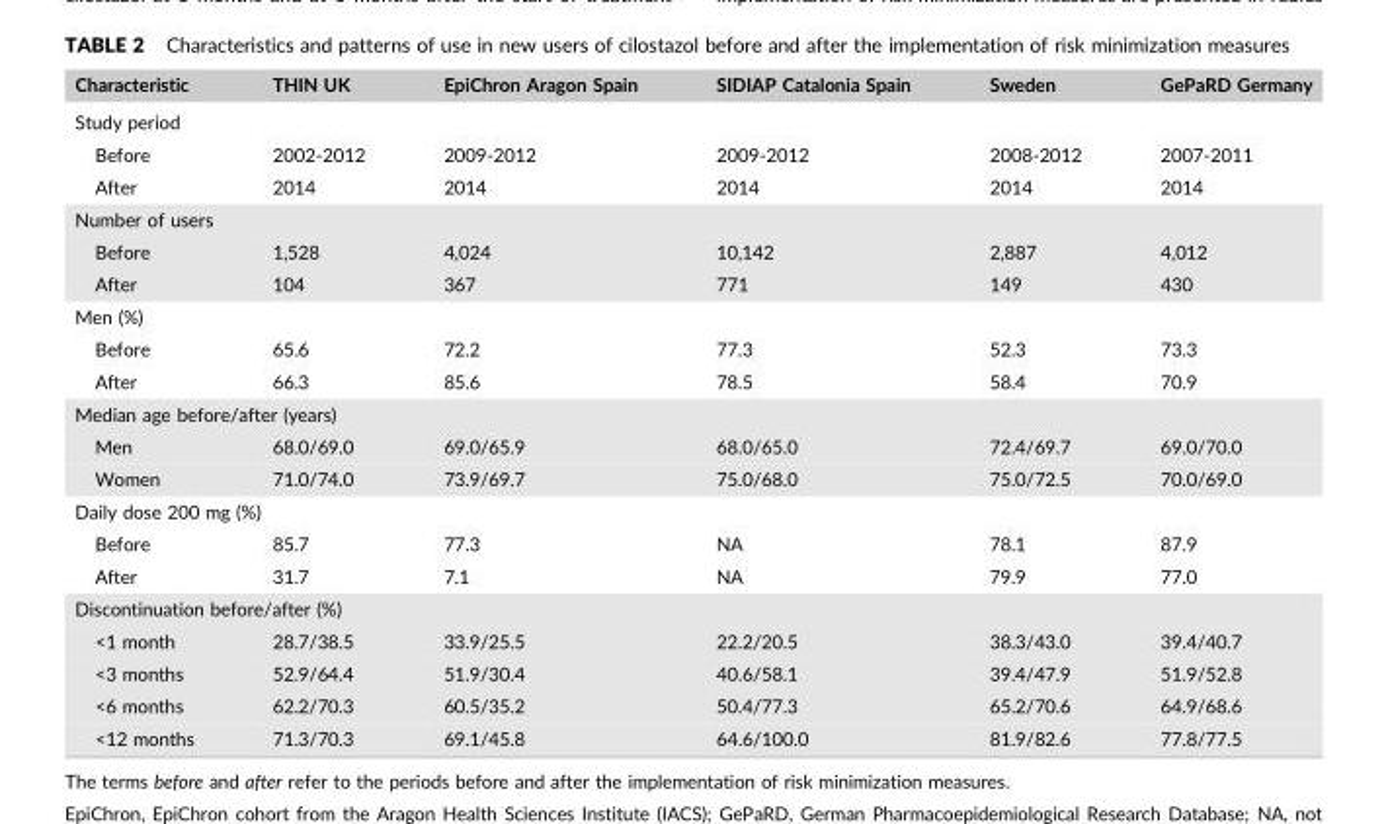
<table><thead><tr><td>Characteristic</td><td>THIN UK</td><td>EpiChron Aragon Spain</td><td>SIDIAP Catalonia Spain</td><td>Sweden</td><td>GePaRD Germany</td></tr></thead><tbody><tr><td colspan="6">Study period</td></tr><tr><td>Before</td><td>2002‐2012</td><td>2009‐2012</td><td>2009‐2012</td><td>2008‐2012</td><td>2007‐2011</td></tr><tr><td>After</td><td>2014</td><td>2014</td><td>2014</td><td>2014</td><td>2014</td></tr><tr><td colspan="6">Number of users</td></tr><tr><td>Before</td><td>1,528</td><td>4,024</td><td>10,142</td><td>2,887</td><td>4,012</td></tr><tr><td>After</td><td>104</td><td>367</td><td>771</td><td>149</td><td>430</td></tr><tr><td colspan="6">Men (%)</td></tr><tr><td>Before</td><td>65.6</td><td>72.2</td><td>77.3</td><td>52.3</td><td>73.3</td></tr><tr><td>After</td><td>66.3</td><td>85.6</td><td>78.5</td><td>58.4</td><td>70.9</td></tr><tr><td colspan="6">Median age before/after (years)</td></tr><tr><td>Men</td><td>68.0/69.0</td><td>69.0/65.9</td><td>68.0/65.0</td><td>72.4/69.7</td><td>69.0/70.0</td></tr><tr><td>Women</td><td>71.0/74.0</td><td>73.9/69.7</td><td>75.0/68.0</td><td>75.0/72.5</td><td>70.0/69.0</td></tr><tr><td colspan="6">Daily dose 200 mg (%)</td></tr><tr><td>Before</td><td>85.7</td><td>77.3</td><td>NA</td><td>78.1</td><td>87.9</td></tr><tr><td>After</td><td>31.7</td><td>7.1</td><td>NA</td><td>79.9</td><td>77.0</td></tr><tr><td colspan="6">Discontinuation before/after (%)</td></tr><tr><td>&lt;1 month</td><td>28.7/38.5</td><td>33.9/25.5</td><td>22.2/20.5</td><td>38.3/43.0</td><td>39.4/40.7</td></tr><tr><td>&lt;3 months</td><td>52.9/64.4</td><td>51.9/30.4</td><td>40.6/58.1</td><td>39.4/47.9</td><td>51.9/52.8</td></tr><tr><td>&lt;6 months</td><td>62.2/70.3</td><td>60.5/35.2</td><td>50.4/77.3</td><td>65.2/70.6</td><td>64.9/68.6</td></tr><tr><td>&lt;12 months</td><td>71.3/70.3</td><td>69.1/45.8</td><td>64.6/100.0</td><td>81.9/82.6</td><td>77.8/77.5</td></tr></tbody></table>